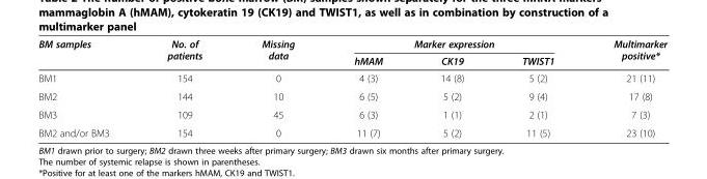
<table><thead><tr><td rowspan="2">BM samples</td><td rowspan="2">No. of patients</td><td rowspan="2">Missing data</td><td colspan="3">Marker expression</td><td rowspan="2">Multimarker positive*</td></tr><tr><td>hMAM</td><td>CK19</td><td>TWIST1</td></tr></thead><tbody><tr><td>BM1</td><td>154</td><td>0</td><td>4 (3)</td><td>14 (8)</td><td>5 (2)</td><td>21 (11)</td></tr><tr><td>BM2</td><td>144</td><td>10</td><td>6 (5)</td><td>5 (2)</td><td>9 (4)</td><td>17 (8)</td></tr><tr><td>BM3</td><td>109</td><td>45</td><td>6 (3)</td><td>1 (1)</td><td>2 (1)</td><td>7 (3)</td></tr><tr><td>BM2 and/or BM3</td><td>154</td><td>0</td><td>11 (7)</td><td>5 (2)</td><td>11 (5)</td><td>23 (10)</td></tr></tbody></table>